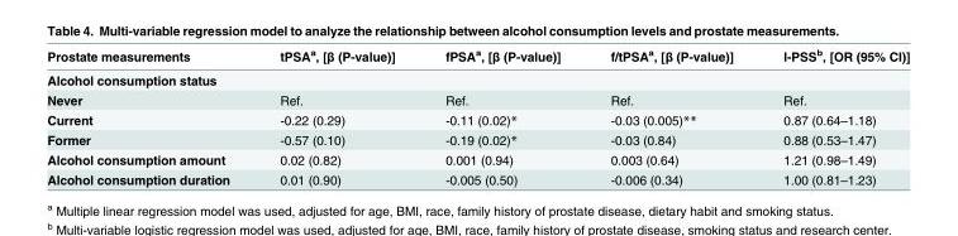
<table><thead><tr><td>Prostate measurements</td><td>tPSA<sup>a</sup>, [β (P-value)]</td><td>fPSA<sup>a</sup>, [β (P-value)]</td><td>f/tPSA<sup>a</sup>, [β (P-value)]</td><td>I-PSS<sup>b</sup>, [OR (95% CI)]</td></tr></thead><tbody><tr><td colspan="5">Alcohol consumption status</td></tr><tr><td>Never</td><td>Ref.</td><td>Ref.</td><td>Ref.</td><td>Ref.</td></tr><tr><td>Current</td><td>-0.22 (0.29)</td><td>-0.11 (0.02)*</td><td>-0.03 (0.005)**</td><td>0.87 (0.64–1.18)</td></tr><tr><td>Former</td><td>-0.57 (0.10)</td><td>-0.19 (0.02)*</td><td>-0.03 (0.84)</td><td>0.88 (0.53–1.47)</td></tr><tr><td>Alcohol consumption amount</td><td>0.02 (0.82)</td><td>0.001 (0.94)</td><td>0.003 (0.64)</td><td>1.21 (0.98–1.49)</td></tr><tr><td>Alcohol consumption duration</td><td>0.01 (0.90)</td><td>-0.005 (0.50)</td><td>-0.006 (0.34)</td><td>1.00 (0.81–1.23)</td></tr></tbody></table>